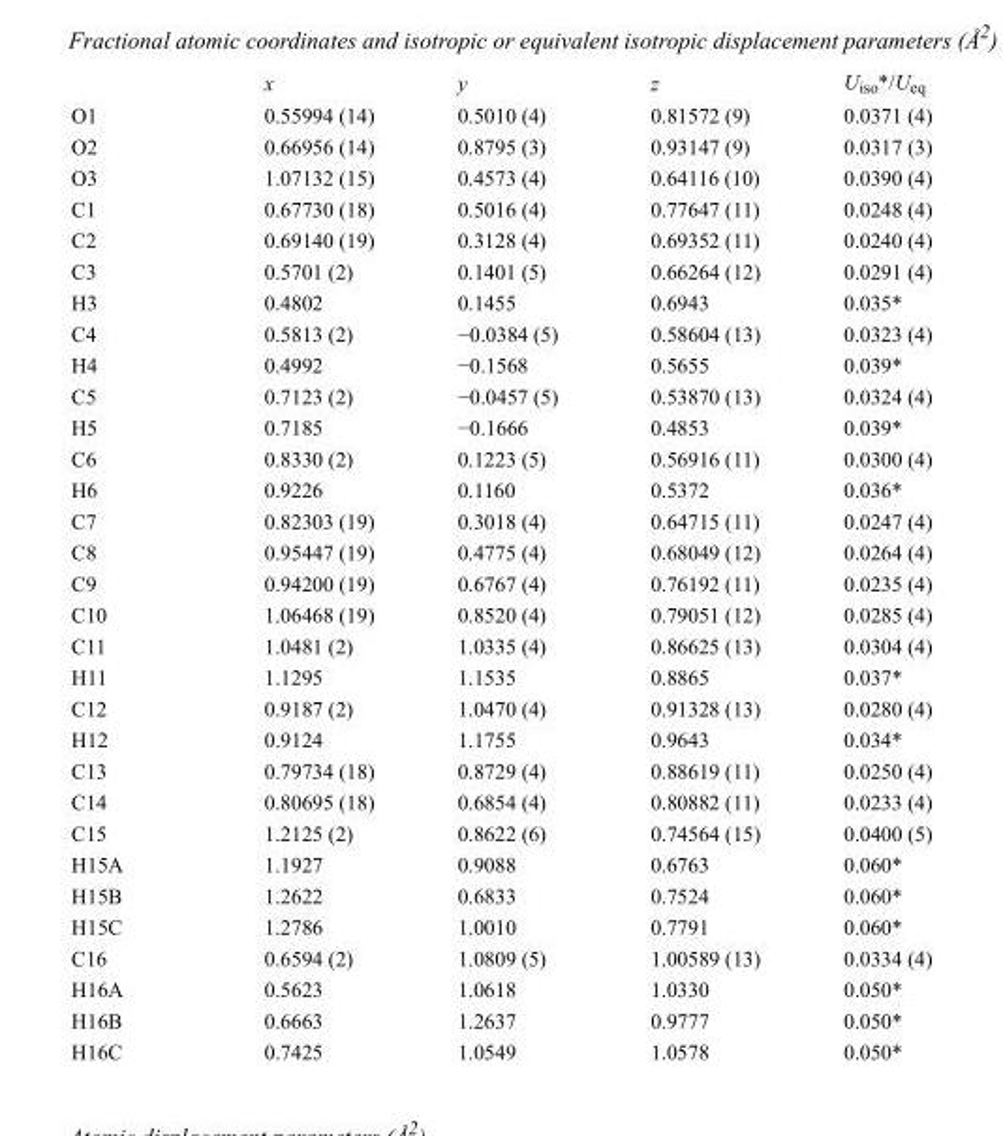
<table><thead><tr><td></td><td>x</td><td>y</td><td>z</td><td>U<sub>iso</sub>*/U<sub>eq</sub></td></tr></thead><tbody><tr><td>O1</td><td>0.55994 (14)</td><td>0.5010 (4)</td><td>0.81572 (9)</td><td>0.0371 (4)</td></tr><tr><td>O2</td><td>0.66956 (14)</td><td>0.8795 (3)</td><td>0.93147 (9)</td><td>0.0317 (3)</td></tr><tr><td>O3</td><td>1.07132 (15)</td><td>0.4573 (4)</td><td>0.64116 (10)</td><td>0.0390 (4)</td></tr><tr><td>C1</td><td>0.67730 (18)</td><td>0.5016 (4)</td><td>0.77647 (11)</td><td>0.0248 (4)</td></tr><tr><td>C2</td><td>0.69140 (19)</td><td>0.3128 (4)</td><td>0.69352 (11)</td><td>0.0240 (4)</td></tr><tr><td>C3</td><td>0.5701 (2)</td><td>0.1401 (5)</td><td>0.66264 (12)</td><td>0.0291 (4)</td></tr><tr><td>H3</td><td>0.4802</td><td>0.1455</td><td>0.6943</td><td>0.035*</td></tr><tr><td>C4</td><td>0.5813 (2)</td><td>−0.0384 (5)</td><td>0.58604 (13)</td><td>0.0323 (4)</td></tr><tr><td>H4</td><td>0.4992</td><td>−0.1568</td><td>0.5655</td><td>0.039*</td></tr><tr><td>C5</td><td>0.7123 (2)</td><td>−0.0457 (5)</td><td>0.53870 (13)</td><td>0.0324 (4)</td></tr><tr><td>H5</td><td>0.7185</td><td>−0.1666</td><td>0.4853</td><td>0.039*</td></tr><tr><td>C6</td><td>0.8330 (2)</td><td>0.1223 (5)</td><td>0.56916 (11)</td><td>0.0300 (4)</td></tr><tr><td>H6</td><td>0.9226</td><td>0.1160</td><td>0.5372</td><td>0.036*</td></tr><tr><td>C7</td><td>0.82303 (19)</td><td>0.3018 (4)</td><td>0.64715 (11)</td><td>0.0247 (4)</td></tr><tr><td>C8</td><td>0.95447 (19)</td><td>0.4775 (4)</td><td>0.68049 (12)</td><td>0.0264 (4)</td></tr><tr><td>C9</td><td>0.94200 (19)</td><td>0.6767 (4)</td><td>0.76192 (11)</td><td>0.0235 (4)</td></tr><tr><td>C10</td><td>1.06468 (19)</td><td>0.8520 (4)</td><td>0.79051 (12)</td><td>0.0285 (4)</td></tr><tr><td>C11</td><td>1.0481 (2)</td><td>1.0335 (4)</td><td>0.86625 (13)</td><td>0.0304 (4)</td></tr><tr><td>H11</td><td>1.1295</td><td>1.1535</td><td>0.8865</td><td>0.037*</td></tr><tr><td>C12</td><td>0.9187 (2)</td><td>1.0470 (4)</td><td>0.91328 (13)</td><td>0.0280 (4)</td></tr><tr><td>H12</td><td>0.9124</td><td>1.1755</td><td>0.9643</td><td>0.034*</td></tr><tr><td>C13</td><td>0.79734 (18)</td><td>0.8729 (4)</td><td>0.88619 (11)</td><td>0.0250 (4)</td></tr><tr><td>C14</td><td>0.80695 (18)</td><td>0.6854 (4)</td><td>0.80882 (11)</td><td>0.0233 (4)</td></tr><tr><td>C15</td><td>1.2125 (2)</td><td>0.8622 (6)</td><td>0.74564 (15)</td><td>0.0400 (5)</td></tr><tr><td>H15A</td><td>1.1927</td><td>0.9088</td><td>0.6763</td><td>0.060*</td></tr><tr><td>H15B</td><td>1.2622</td><td>0.6833</td><td>0.7524</td><td>0.060*</td></tr><tr><td>H15C</td><td>1.2786</td><td>1.0010</td><td>0.7791</td><td>0.060*</td></tr><tr><td>C16</td><td>0.6594 (2)</td><td>1.0809 (5)</td><td>1.00589 (13)</td><td>0.0334 (4)</td></tr><tr><td>H16A</td><td>0.5623</td><td>1.0618</td><td>1.0330</td><td>0.050*</td></tr><tr><td>H16B</td><td>0.6663</td><td>1.2637</td><td>0.9777</td><td>0.050*</td></tr><tr><td>H16C</td><td>0.7425</td><td>1.0549</td><td>1.0578</td><td>0.050*</td></tr></tbody></table>